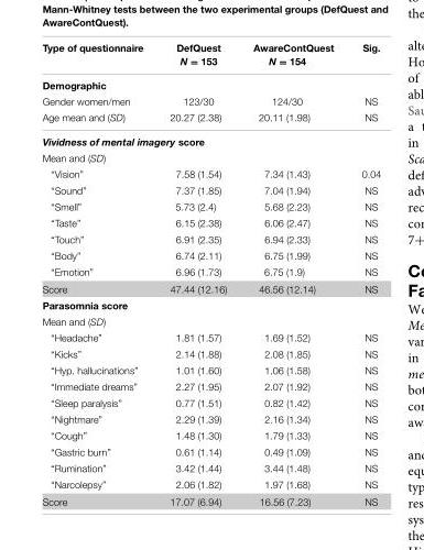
<table><thead><tr><td>Type of questionnaire</td><td>DefQuest N = 153</td><td>AwareContQuest N = 154</td><td>Sig.</td></tr></thead><tbody><tr><td colspan="4">Demographic</td></tr><tr><td>Gender women/men</td><td>123/30</td><td>124/30</td><td>NS</td></tr><tr><td>Age mean and (SD)</td><td>20.27 (2.38)</td><td>20.11 (1.98)</td><td>NS</td></tr><tr><td colspan="4">Vividness of mental imagery score</td></tr><tr><td colspan="4">Mean and (SD)</td></tr><tr><td>“Vision”</td><td>7.58 (1.54)</td><td>7.34 (1.43)</td><td>0.04</td></tr><tr><td>“Sound”</td><td>7.37 (1.85)</td><td>7.04 (1.94)</td><td>NS</td></tr><tr><td>“Smell”</td><td>5.73 (2.4)</td><td>5.68 (2.23)</td><td>NS</td></tr><tr><td>“Taste”</td><td>6.15 (2.38)</td><td>6.06 (2.47)</td><td>NS</td></tr><tr><td>“Touch”</td><td>6.91 (2.35)</td><td>6.94 (2.33)</td><td>NS</td></tr><tr><td>“Body”</td><td>6.74 (2.11)</td><td>6.75 (1.99)</td><td>NS</td></tr><tr><td>“Emotion”</td><td>6.96 (1.73)</td><td>6.75 (1.9)</td><td>NS</td></tr><tr><td>Score</td><td>47.44 (12.16)</td><td>46.56 (12.14)</td><td>NS</td></tr><tr><td colspan="4">Parasomnia score</td></tr><tr><td colspan="4">Mean and (SD)</td></tr><tr><td>“Headache”</td><td>1.81 (1.57)</td><td>1.69 (1.52)</td><td>NS</td></tr><tr><td>“Kicks”</td><td>2.14 (1.88)</td><td>2.08 (1.85)</td><td>NS</td></tr><tr><td>“Hyp. hallucinations”</td><td>1.01 (1.60)</td><td>1.06 (1.58)</td><td>NS</td></tr><tr><td>“Immediate dreams”</td><td>2.27 (1.95)</td><td>2.07 (1.92)</td><td>NS</td></tr><tr><td>“Sleep paralysis”</td><td>0.77 (1.51)</td><td>0.82 (1.42)</td><td>NS</td></tr><tr><td>“Nightmare”</td><td>2.29 (1.39)</td><td>2.16 (1.34)</td><td>NS</td></tr><tr><td>“Cough”</td><td>1.48 (1.30)</td><td>1.79 (1.33)</td><td>NS</td></tr><tr><td>“Gastric burn”</td><td>0.61 (1.14)</td><td>0.49 (1.09)</td><td>NS</td></tr><tr><td>“Rumination”</td><td>3.42 (1.44)</td><td>3.44 (1.48)</td><td>NS</td></tr><tr><td>“Narcolepsy”</td><td>2.06 (1.82)</td><td>1.97 (1.68)</td><td>NS</td></tr><tr><td>Score</td><td>17.07 (6.94)</td><td>16.56 (7.23)</td><td>NS</td></tr></tbody></table>